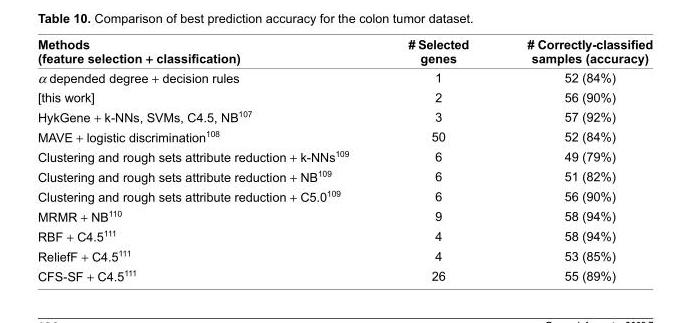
<table><thead><tr><td>Methods (feature selection + classifi cation)</td><td># Selected genes</td><td># Correctly-classifi ed samples (accuracy)</td></tr></thead><tbody><tr><td>α depended degree + decision rules</td><td>1</td><td>52 (84%)</td></tr><tr><td>[this work]</td><td>2</td><td>56 (90%)</td></tr><tr><td>HykGene + k-NNs, SVMs, C4.5, NB<sup>107</sup></td><td>3</td><td>57 (92%)</td></tr><tr><td>MAVE + logistic discrimination<sup>108</sup></td><td>50</td><td>52 (84%)</td></tr><tr><td>Clustering and rough sets attribute reduction + k-NNs<sup>109</sup></td><td>6</td><td>49 (79%)</td></tr><tr><td>Clustering and rough sets attribute reduction + NB<sup>109</sup></td><td>6</td><td>51 (82%)</td></tr><tr><td>Clustering and rough sets attribute reduction + C5.0<sup>109</sup></td><td>6</td><td>56 (90%)</td></tr><tr><td>MRMR + NB<sup>110</sup></td><td>9</td><td>58 (94%)</td></tr><tr><td>RBF + C4.5<sup>111</sup></td><td>4</td><td>58 (94%)</td></tr><tr><td>ReliefF + C4.5<sup>111</sup></td><td>4</td><td>53 (85%)</td></tr><tr><td>CFS-SF + C4.5<sup>111</sup></td><td>26</td><td>55 (89%)</td></tr></tbody></table>